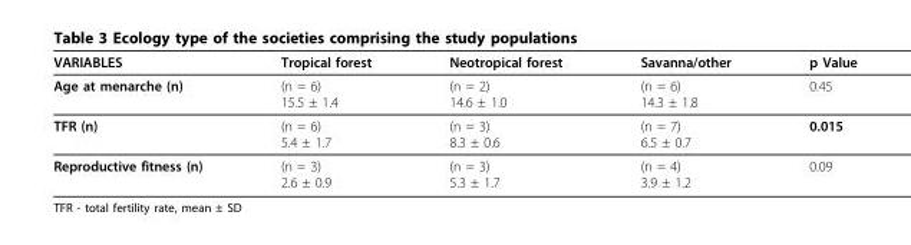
<table><thead><tr><td>VARIABLES</td><td>Tropical forest</td><td>Neotropical forest</td><td>Savanna/other</td><td>p Value</td></tr></thead><tbody><tr><td>Age at menarche (n)</td><td>(n = 6) 15.5 ± 1.4</td><td>(n = 2) 14.6 ± 1.0</td><td>(n = 6) 14.3 ± 1.8</td><td>0.45</td></tr><tr><td>TFR (n)</td><td>(n = 6) 5.4 ± 1.7</td><td>(n = 3) 8.3 ± 0.6</td><td>(n = 7) 6.5 ± 0.7</td><td>0.015</td></tr><tr><td>Reproductive fitness (n)</td><td>(n = 3) 2.6 ± 0.9</td><td>(n = 3) 5.3 ± 1.7</td><td>(n = 4) 3.9 ± 1.2</td><td>0.09</td></tr></tbody></table>